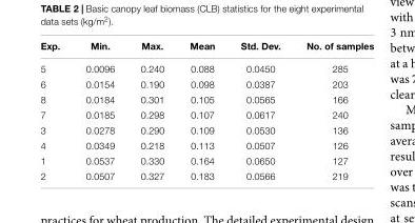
<table><thead><tr><td>Exp.</td><td>Min.</td><td>Max.</td><td>Mean</td><td>Std. Dev.</td><td>No. of samples</td></tr></thead><tbody><tr><td>5</td><td>0.0096</td><td>0.240</td><td>0.088</td><td>0.0450</td><td>285</td></tr><tr><td>6</td><td>0.0154</td><td>0.190</td><td>0.098</td><td>0.0387</td><td>203</td></tr><tr><td>8</td><td>0.0184</td><td>0.301</td><td>0.105</td><td>0.0565</td><td>166</td></tr><tr><td>7</td><td>0.0185</td><td>0.298</td><td>0.107</td><td>0.0617</td><td>240</td></tr><tr><td>3</td><td>0.0278</td><td>0.290</td><td>0.109</td><td>0.0530</td><td>136</td></tr><tr><td>4</td><td>0.0349</td><td>0.218</td><td>0.113</td><td>0.0507</td><td>126</td></tr><tr><td>1</td><td>0.0537</td><td>0.330</td><td>0.164</td><td>0.0650</td><td>127</td></tr><tr><td>2</td><td>0.0507</td><td>0.327</td><td>0.183</td><td>0.0566</td><td>219</td></tr></tbody></table>